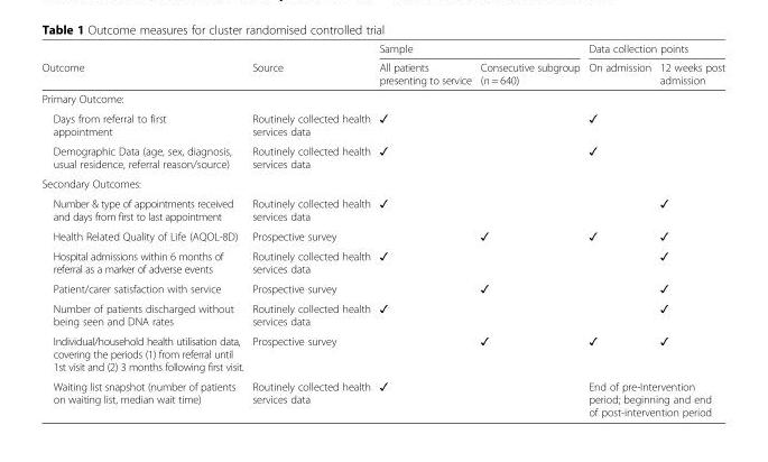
<table><thead><tr><td rowspan="2">Outcome</td><td rowspan="2">Source</td><td colspan="2">Sample</td><td colspan="2">Data collection points</td></tr><tr><td>All patients presenting to service</td><td>Consecutive subgroup (n = 640)</td><td>On admission</td><td>12 weeks post admission</td></tr></thead><tbody><tr><td colspan="6">Primary Outcome:</td></tr><tr><td>Days from referral to first appointment</td><td>Routinely collected health services data</td><td>✓</td><td></td><td>✓</td><td></td></tr><tr><td>Demographic Data (age, sex, diagnosis, usual residence, referral reason/source)</td><td>Routinely collected health services data</td><td>✓</td><td></td><td>✓</td><td></td></tr><tr><td colspan="6">Secondary Outcomes:</td></tr><tr><td>Number &amp; type of appointments received and days from first to last appointment</td><td>Routinely collected health services data</td><td>✓</td><td></td><td></td><td>✓</td></tr><tr><td>Health Related Quality of Life (AQOL-8D)</td><td>Prospective survey</td><td></td><td>✓</td><td>✓</td><td>✓</td></tr><tr><td>Hospital admissions within 6 months of referral as a marker of adverse events</td><td>Routinely collected health services data</td><td>✓</td><td></td><td></td><td>✓</td></tr><tr><td>Patient/carer satisfaction with service</td><td>Prospective survey</td><td></td><td>✓</td><td></td><td>✓</td></tr><tr><td>Number of patients discharged without being seen and DNA rates</td><td>Routinely collected health services data</td><td>✓</td><td></td><td></td><td>✓</td></tr><tr><td>Individual/household health utilisation data, covering the periods (1) from referral until 1st visit and (2) 3 months following first visit.</td><td>Prospective survey</td><td></td><td>✓</td><td>✓</td><td>✓</td></tr><tr><td>Waiting list snapshot (number of patients on waiting list, median wait time)</td><td>Routinely collected health services data</td><td>✓</td><td></td><td colspan="2">End of pre-Intervention period; beginning and end of post-intervention period</td></tr></tbody></table>